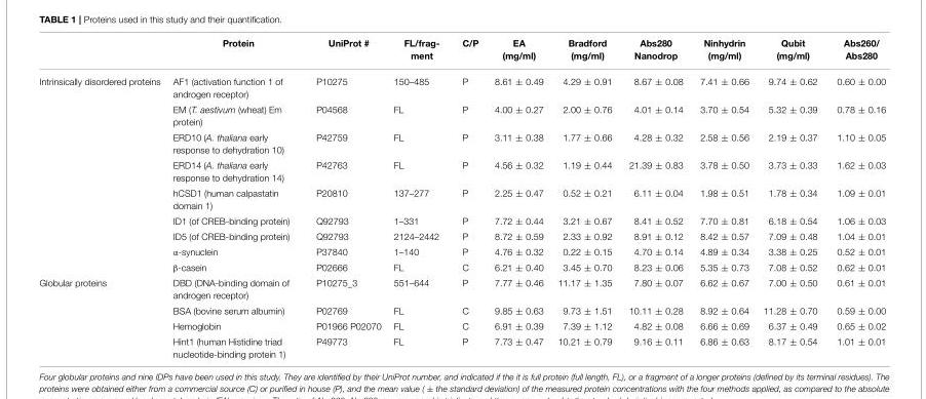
<table><thead><tr><td></td><td>Protein</td><td>UniProt #</td><td>FL/frag- ment</td><td>C/P</td><td>EA (mg/ml)</td><td>Bradford (mg/ml)</td><td>Abs280 Nanodrop</td><td>Ninhydrin (mg/ml)</td><td>Qubit (mg/ml)</td><td>Abs260/ Abs280</td></tr></thead><tbody><tr><td rowspan="9">Intrinsically disordered proteins</td><td>AF1 (activation function 1 of androgen receptor)</td><td>P10275</td><td>150–485</td><td>P</td><td>8.61 ± 0.49</td><td>4.29 ± 0.91</td><td>8.67 ± 0.08</td><td>7.41 ± 0.66</td><td>9.74 ± 0.62</td><td>0.60 ± 0.00</td></tr><tr><td>EM (T. aestivum (wheat) Em protein)</td><td>P04568</td><td>FL</td><td>P</td><td>4.00 ± 0.27</td><td>2.00 ± 0.76</td><td>4.01 ± 0.14</td><td>3.70 ± 0.54</td><td>5.32 ± 0.39</td><td>0.78 ± 0.16</td></tr><tr><td>ERD10 (A. thaliana early response to dehydration 10)</td><td>P42759</td><td>FL</td><td>P</td><td>3.11 ± 0.38</td><td>1.77 ± 0.66</td><td>4.28 ± 0.32</td><td>2.58 ± 0.56</td><td>2.19 ± 0.37</td><td>1.10 ± 0.05</td></tr><tr><td>ERD14 (A. thaliana early response to dehydration 14)</td><td>P42763</td><td>FL</td><td>P</td><td>4.56 ± 0.32</td><td>1.19 ± 0.44</td><td>21.39 ± 0.83</td><td>3.78 ± 0.50</td><td>3.73 ± 0.33</td><td>1.62 ± 0.03</td></tr><tr><td>hCSD1 (human calpastatin domain 1)</td><td>P20810</td><td>137–277</td><td>P</td><td>2.25 ± 0.47</td><td>0.52 ± 0.21</td><td>6.11 ± 0.04</td><td>1.98 ± 0.51</td><td>1.78 ± 0.34</td><td>1.09 ± 0.01</td></tr><tr><td>ID1 (of CREB-binding protein)</td><td>Q92793</td><td>1–331</td><td>P</td><td>7.72 ± 0.44</td><td>3.21 ± 0.67</td><td>8.41 ± 0.52</td><td>7.70 ± 0.81</td><td>6.18 ± 0.54</td><td>1.06 ± 0.03</td></tr><tr><td>ID5 (of CREB-binding protein)</td><td>Q92793</td><td>2124–2442</td><td>P</td><td>8.72 ± 0.59</td><td>2.33 ± 0.92</td><td>8.91 ± 0.12</td><td>8.42 ± 0.57</td><td>7.09 ± 0.48</td><td>1.04 ± 0.01</td></tr><tr><td>α-synuclein</td><td>P37840</td><td>1–140</td><td>P</td><td>4.76 ± 0.32</td><td>0.22 ± 0.15</td><td>4.70 ± 0.14</td><td>4.89 ± 0.34</td><td>3.38 ± 0.25</td><td>0.52 ± 0.01</td></tr><tr><td>β-casein</td><td>P02666</td><td>FL</td><td>C</td><td>6.21 ± 0.40</td><td>3.45 ± 0.70</td><td>8.23 ± 0.06</td><td>5.35 ± 0.73</td><td>7.08 ± 0.52</td><td>0.62 ± 0.01</td></tr><tr><td rowspan="4">Globular proteins</td><td>DBD (DNA-binding domain of androgen receptor)</td><td>P10275_3</td><td>551–644</td><td>P</td><td>7.77 ± 0.46</td><td>11.17 ± 1.35</td><td>7.80 ± 0.07</td><td>6.62 ± 0.67</td><td>7.00 ± 0.50</td><td>0.61 ± 0.01</td></tr><tr><td>BSA (bovine serum albumin)</td><td>P02769</td><td>FL</td><td>C</td><td>9.85 ± 0.63</td><td>9.73 ± 1.51</td><td>10.11 ± 0.28</td><td>8.92 ± 0.64</td><td>11.28 ± 0.70</td><td>0.59 ± 0.00</td></tr><tr><td>Hemoglobin</td><td>P01966 P02070</td><td>FL</td><td>C</td><td>6.91 ± 0.39</td><td>7.39 ± 1.12</td><td>4.82 ± 0.08</td><td>6.66 ± 0.69</td><td>6.37 ± 0.49</td><td>0.65 ± 0.02</td></tr><tr><td>Hint1 (human Histidine triad nucleotide-binding protein 1)</td><td>P49773</td><td>FL</td><td>P</td><td>7.73 ± 0.47</td><td>10.21 ± 0.79</td><td>9.16 ± 0.11</td><td>6.86 ± 0.63</td><td>8.17 ± 0.54</td><td>1.01 ± 0.01</td></tr></tbody></table>